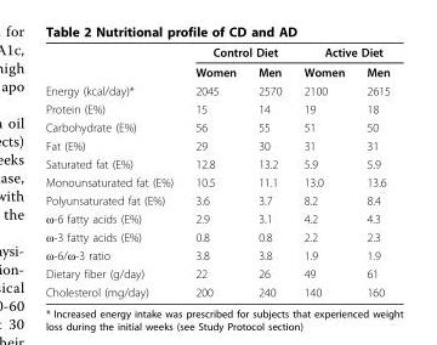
<table><thead><tr><td rowspan="2"></td><td colspan="2">Control Diet</td><td colspan="2">Active Diet</td></tr><tr><td>Women</td><td>Men</td><td>Women</td><td>Men</td></tr></thead><tbody><tr><td>Energy (kcal/day)*</td><td>2045</td><td>2570</td><td>2100</td><td>2615</td></tr><tr><td>Protein (E%)</td><td>15</td><td>14</td><td>19</td><td>18</td></tr><tr><td>Carbohydrate (E%)</td><td>56</td><td>55</td><td>51</td><td>50</td></tr><tr><td>Fat (E%)</td><td>29</td><td>30</td><td>31</td><td>31</td></tr><tr><td>Saturated fat (E%)</td><td>12.8</td><td>13.2</td><td>5.9</td><td>5.9</td></tr><tr><td>Monounsaturated fat (E%)</td><td>10.5</td><td>11.1</td><td>13.0</td><td>13.6</td></tr><tr><td>Polyunsaturated fat (E%)</td><td>3.6</td><td>3.7</td><td>8.2</td><td>8.4</td></tr><tr><td>ω-6 fatty acids (E%)</td><td>2.9</td><td>3.1</td><td>4.2</td><td>4.3</td></tr><tr><td>ω-3 fatty acids (E%)</td><td>0.8</td><td>0.8</td><td>2.2</td><td>2.3</td></tr><tr><td>ω-6/ω-3 ratio</td><td>3.8</td><td>3.8</td><td>1.9</td><td>1.9</td></tr><tr><td>Dietary fiber (g/day)</td><td>22</td><td>26</td><td>49</td><td>61</td></tr><tr><td>Cholesterol (mg/day)</td><td>200</td><td>240</td><td>140</td><td>160</td></tr></tbody></table>